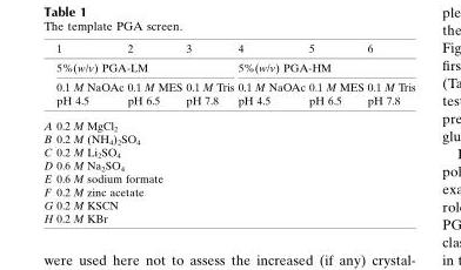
<table><thead><tr><td rowspan="3"></td><td>1</td><td>2</td><td>3</td><td>4</td><td>5</td><td>6</td></tr><tr><td colspan="3">5%(w/v) PGA-LM</td><td colspan="3">5%(w/v) PGA-HM</td></tr><tr><td>0.1 M NaOAc pH 4.5</td><td>0.1 M MES pH 6.5</td><td>0.1 M Tris pH 7.8</td><td>0.1 M NaOAc pH 4.5</td><td>0.1 M MES pH 6.5</td><td>0.1 M Tris pH 7.8</td></tr></thead><tbody><tr><td>A</td><td colspan="6">0.2 M MgCl<sub>2</sub></td></tr><tr><td>B</td><td colspan="6">0.2 M (NH<sub>4</sub>)<sub>2</sub>SO<sub>4</sub></td></tr><tr><td>C</td><td colspan="6">0.2 M Li<sub>2</sub>SO<sub>4</sub></td></tr><tr><td>D</td><td colspan="6">0.6 M Na<sub>2</sub>SO<sub>4</sub></td></tr><tr><td>E</td><td colspan="6">0.6 M sodium formate</td></tr><tr><td>F</td><td colspan="6">0.2 M zinc acetate</td></tr><tr><td>G</td><td colspan="6">0.2 M KSCN</td></tr><tr><td>H</td><td colspan="6">0.2 M KBr</td></tr></tbody></table>